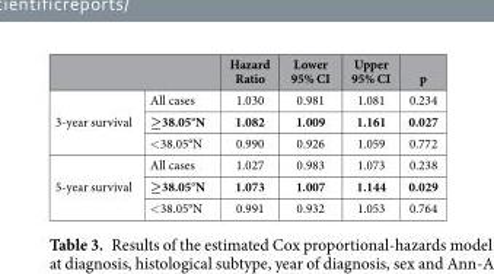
<table><thead><tr><td></td><td></td><td>Hazard Ratio</td><td>Lower 95% CI</td><td>Upper 95% CI</td><td>p</td></tr></thead><tbody><tr><td rowspan="3">3-year survival</td><td>All cases</td><td>1.030</td><td>0.981</td><td>1.081</td><td>0.234</td></tr><tr><td>≥38.05°N</td><td>1.082</td><td>1.009</td><td>1.161</td><td>0.027</td></tr><tr><td>&lt;38.05°N</td><td>0.990</td><td>0.926</td><td>1.059</td><td>0.772</td></tr><tr><td rowspan="3">5-year survival</td><td>All cases</td><td>1.027</td><td>0.983</td><td>1.073</td><td>0.238</td></tr><tr><td>≥38.05°N</td><td>1.073</td><td>1.007</td><td>1.144</td><td>0.029</td></tr><tr><td>&lt;38.05°N</td><td>0.991</td><td>0.932</td><td>1.053</td><td>0.764</td></tr></tbody></table>